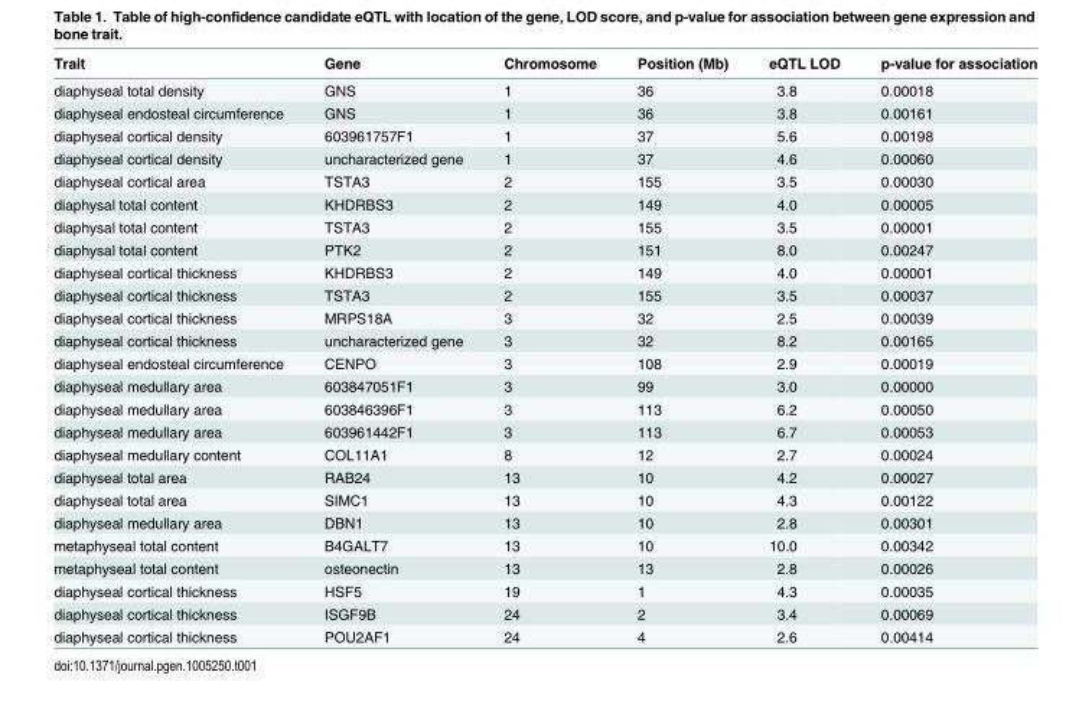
<table><thead><tr><td>Trait</td><td>Gene</td><td>Chromosome</td><td>Position (Mb)</td><td>eQTL LOD</td><td>p-value for association</td></tr></thead><tbody><tr><td>diaphyseal total density</td><td>GNS</td><td>1</td><td>36</td><td>3.8</td><td>0.00018</td></tr><tr><td>diaphyseal endosteal circumference</td><td>GNS</td><td>1</td><td>36</td><td>3.8</td><td>0.00161</td></tr><tr><td>diaphyseal cortical density</td><td>603961757F1</td><td>1</td><td>37</td><td>5.6</td><td>0.00198</td></tr><tr><td>diaphyseal cortical density</td><td>uncharacterized gene</td><td>1</td><td>37</td><td>4.6</td><td>0.00060</td></tr><tr><td>diaphyseal cortical area</td><td>TSTA3</td><td>2</td><td>155</td><td>3.5</td><td>0.00030</td></tr><tr><td>diaphysal total content</td><td>KHDRBS3</td><td>2</td><td>149</td><td>4.0</td><td>0.00005</td></tr><tr><td>diaphysal total content</td><td>TSTA3</td><td>2</td><td>155</td><td>3.5</td><td>0.00001</td></tr><tr><td>diaphysal total content</td><td>PTK2</td><td>2</td><td>151</td><td>8.0</td><td>0.00247</td></tr><tr><td>diaphyseal cortical thickness</td><td>KHDRBS3</td><td>2</td><td>149</td><td>4.0</td><td>0.00001</td></tr><tr><td>diaphyseal cortical thickness</td><td>TSTA3</td><td>2</td><td>155</td><td>3.5</td><td>0.00037</td></tr><tr><td>diaphyseal cortical thickness</td><td>MRPS18A</td><td>3</td><td>32</td><td>2.5</td><td>0.00039</td></tr><tr><td>diaphyseal cortical thickness</td><td>uncharacterized gene</td><td>3</td><td>32</td><td>8.2</td><td>0.00165</td></tr><tr><td>diaphyseal endosteal circumference</td><td>CENPO</td><td>3</td><td>108</td><td>2.9</td><td>0.00019</td></tr><tr><td>diaphyseal medullary area</td><td>603847051F1</td><td>3</td><td>99</td><td>3.0</td><td>0.00000</td></tr><tr><td>diaphyseal medullary area</td><td>603846396F1</td><td>3</td><td>113</td><td>6.2</td><td>0.00050</td></tr><tr><td>diaphyseal medullary area</td><td>603961442F1</td><td>3</td><td>113</td><td>6.7</td><td>0.00053</td></tr><tr><td>diaphyseal medullary content</td><td>COL11A1</td><td>8</td><td>12</td><td>2.7</td><td>0.00024</td></tr><tr><td>diaphyseal total area</td><td>RAB24</td><td>13</td><td>10</td><td>4.2</td><td>0.00027</td></tr><tr><td>diaphyseal total area</td><td>SIMC1</td><td>13</td><td>10</td><td>4.3</td><td>0.00122</td></tr><tr><td>diaphyseal medullary area</td><td>DBN1</td><td>13</td><td>10</td><td>2.8</td><td>0.00301</td></tr><tr><td>metaphyseal total content</td><td>B4GALT7</td><td>13</td><td>10</td><td>10.0</td><td>0.00342</td></tr><tr><td>metaphyseal total content</td><td>osteonectin</td><td>13</td><td>13</td><td>2.8</td><td>0.00026</td></tr><tr><td>diaphyseal cortical thickness</td><td>HSF5</td><td>19</td><td>1</td><td>4.3</td><td>0.00035</td></tr><tr><td>diaphyseal cortical thickness</td><td>ISGF9B</td><td>24</td><td>2</td><td>3.4</td><td>0.00069</td></tr><tr><td>diaphyseal cortical thickness</td><td>POU2AF1</td><td>24</td><td>4</td><td>2.6</td><td>0.00414</td></tr></tbody></table>